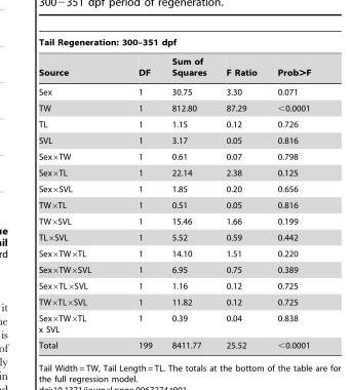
<table><thead><tr><td colspan="5">Tail Regeneration: 300–351 dpf</td></tr><tr><td>Source</td><td>DF</td><td>Sum of Squares</td><td>F Ratio</td><td>Prob&gt;F</td></tr></thead><tbody><tr><td>Sex</td><td>1</td><td>30.75</td><td>3.30</td><td>0.071</td></tr><tr><td>TW</td><td>1</td><td>812.80</td><td>87.29</td><td>&lt;0.0001</td></tr><tr><td>TL</td><td>1</td><td>1.15</td><td>0.12</td><td>0.726</td></tr><tr><td>SVL</td><td>1</td><td>3.17</td><td>0.05</td><td>0.816</td></tr><tr><td>Sex×TW</td><td>1</td><td>0.61</td><td>0.07</td><td>0.798</td></tr><tr><td>Sex×TL</td><td>1</td><td>22.14</td><td>2.38</td><td>0.125</td></tr><tr><td>Sex×SVL</td><td>1</td><td>1.85</td><td>0.20</td><td>0.656</td></tr><tr><td>TW×TL</td><td>1</td><td>0.51</td><td>0.05</td><td>0.816</td></tr><tr><td>TW×SVL</td><td>1</td><td>15.46</td><td>1.66</td><td>0.199</td></tr><tr><td>TL×SVL</td><td>1</td><td>5.52</td><td>0.59</td><td>0.442</td></tr><tr><td>Sex×TW×TL</td><td>1</td><td>14.10</td><td>1.51</td><td>0.220</td></tr><tr><td>Sex×TW×SVL</td><td>1</td><td>6.95</td><td>0.75</td><td>0.389</td></tr><tr><td>Sex×TL×SVL</td><td>1</td><td>1.16</td><td>0.12</td><td>0.725</td></tr><tr><td>TW×TL×SVL</td><td>1</td><td>11.82</td><td>0.12</td><td>0.725</td></tr><tr><td>Sex×TW×TL x SVL</td><td>1</td><td>0.39</td><td>0.04</td><td>0.838</td></tr><tr><td>Total</td><td>199</td><td>8411.77</td><td>25.52</td><td>&lt;0.0001</td></tr></tbody></table>